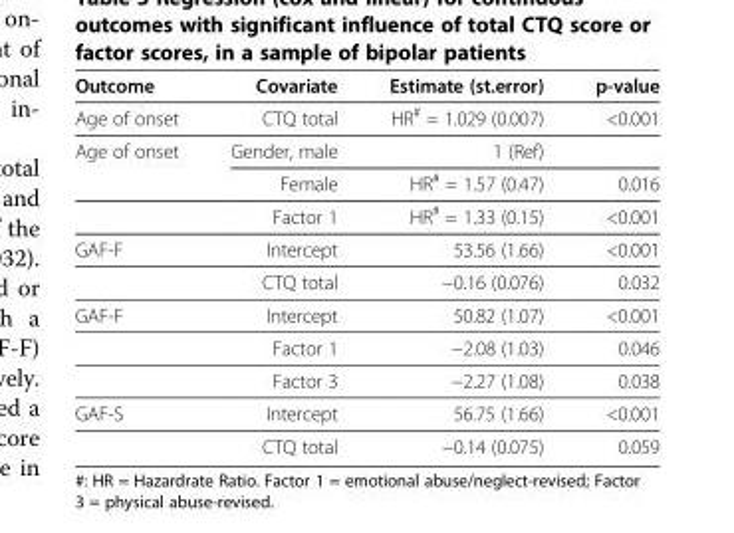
<table><thead><tr><td>Outcome</td><td>Covariate</td><td>Estimate (st.error)</td><td>p-value</td></tr></thead><tbody><tr><td>Age of onset</td><td>CTQ total</td><td>HR<sup>#</sup> = 1.029 (0.007)</td><td>&lt;0.001</td></tr><tr><td rowspan="3">Age of onset</td><td>Gender, male</td><td>1 (Ref)</td><td></td></tr><tr><td>Female</td><td>HR<sup>#</sup> = 1.57 (0.47)</td><td>0.016</td></tr><tr><td>Factor 1</td><td>HR<sup>#</sup> = 1.33 (0.15)</td><td>&lt;0.001</td></tr><tr><td rowspan="2">GAF-F</td><td>Intercept</td><td>53.56 (1.66)</td><td>&lt;0.001</td></tr><tr><td>CTQ total</td><td>−0.16 (0.076)</td><td>0.032</td></tr><tr><td rowspan="3">GAF-F</td><td>Intercept</td><td>50.82 (1.07)</td><td>&lt;0.001</td></tr><tr><td>Factor 1</td><td>−2.08 (1.03)</td><td>0.046</td></tr><tr><td>Factor 3</td><td>−2.27 (1.08)</td><td>0.038</td></tr><tr><td rowspan="2">GAF-S</td><td>Intercept</td><td>56.75 (1.66)</td><td>&lt;0.001</td></tr><tr><td>CTQ total</td><td>−0.14 (0.075)</td><td>0.059</td></tr></tbody></table>